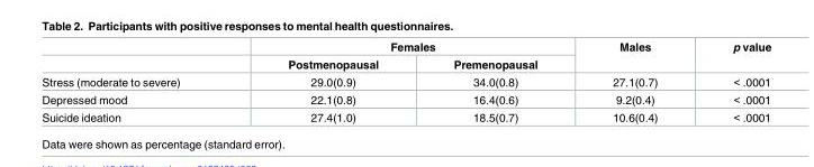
<table><thead><tr><td rowspan="2"></td><td colspan="2">Females</td><td rowspan="2">Males</td><td rowspan="2">p value</td></tr><tr><td>Postmenopausal</td><td>Premenopausal</td></tr></thead><tbody><tr><td>Stress (moderate to severe)</td><td>29.0(0.9)</td><td>34.0(0.8)</td><td>27.1(0.7)</td><td>&lt; .0001</td></tr><tr><td>Depressed mood</td><td>22.1(0.8)</td><td>16.4(0.6)</td><td>9.2(0.4)</td><td>&lt; .0001</td></tr><tr><td>Suicide ideation</td><td>27.4(1.0)</td><td>18.5(0.7)</td><td>10.6(0.4)</td><td>&lt; .0001</td></tr></tbody></table>